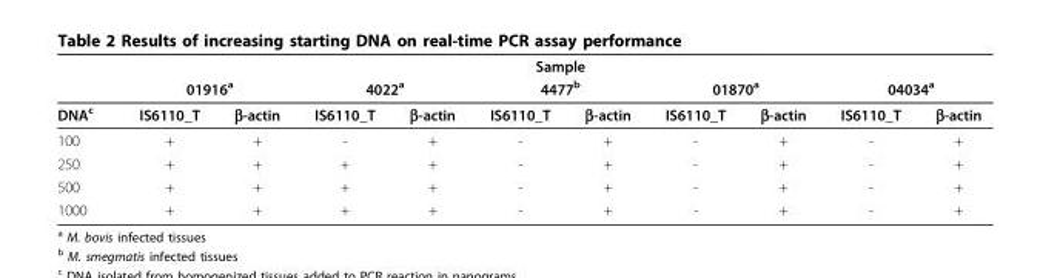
<table><thead><tr><td rowspan="3">DNA<sup>c</sup></td><td colspan="10">Sample</td></tr><tr><td colspan="2">01916<sup>a</sup></td><td colspan="2">4022<sup>a</sup></td><td colspan="2">4477<sup>b</sup></td><td colspan="2">01870<sup>a</sup></td><td colspan="2">04034<sup>a</sup></td></tr><tr><td>IS6110_T</td><td>β-actin</td><td>IS6110_T</td><td>β-actin</td><td>IS6110_T</td><td>β-actin</td><td>IS6110_T</td><td>β-actin</td><td>IS6110_T</td><td>β-actin</td></tr></thead><tbody><tr><td>100</td><td>+</td><td>+</td><td>-</td><td>+</td><td>-</td><td>+</td><td>-</td><td>+</td><td>-</td><td>+</td></tr><tr><td>250</td><td>+</td><td>+</td><td>+</td><td>+</td><td>-</td><td>+</td><td>-</td><td>+</td><td>-</td><td>+</td></tr><tr><td>500</td><td>+</td><td>+</td><td>+</td><td>+</td><td>-</td><td>+</td><td>-</td><td>+</td><td>-</td><td>+</td></tr><tr><td>1000</td><td>+</td><td>+</td><td>+</td><td>+</td><td>-</td><td>+</td><td>-</td><td>+</td><td>-</td><td>+</td></tr></tbody></table>